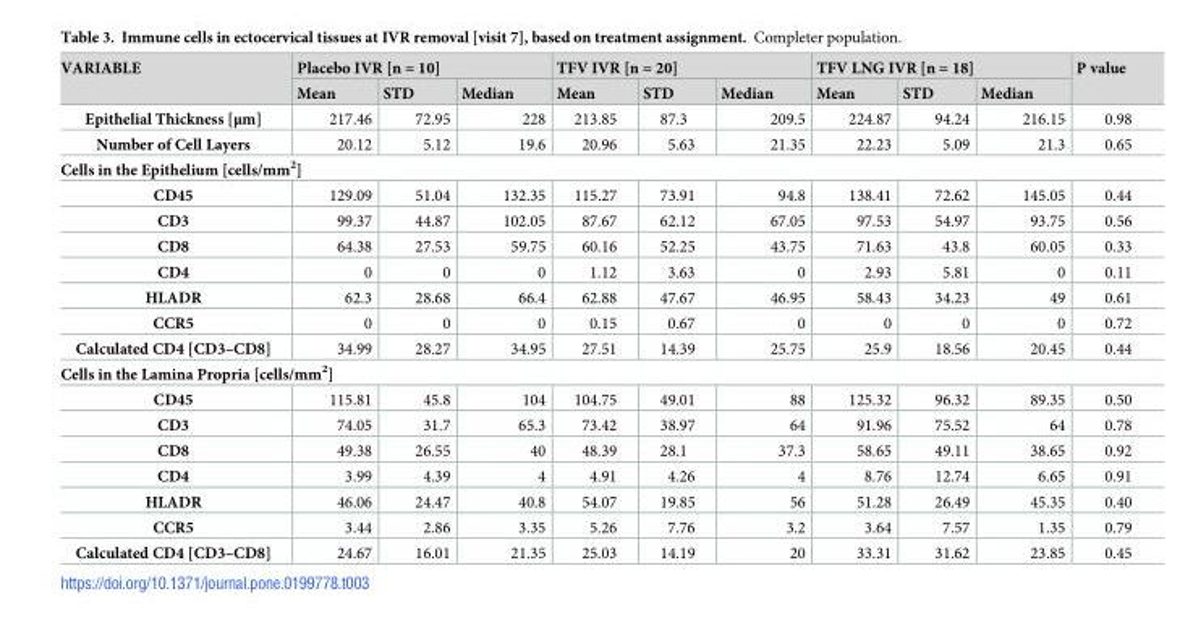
<table><thead><tr><td rowspan="2">VARIABLE</td><td colspan="3">Placebo IVR [n = 10]</td><td colspan="3">TFV IVR [n = 20]</td><td colspan="3">TFV LNG IVR [n = 18]</td><td rowspan="2">P value</td></tr><tr><td>Mean</td><td>STD</td><td>Median</td><td>Mean</td><td>STD</td><td>Median</td><td>Mean</td><td>STD</td><td>Median</td></tr></thead><tbody><tr><td>Epithelial Thickness [μm]</td><td>217.46</td><td>72.95</td><td>228</td><td>213.85</td><td>87.3</td><td>209.5</td><td>224.87</td><td>94.24</td><td>216.15</td><td>0.98</td></tr><tr><td>Number of Cell Layers</td><td>20.12</td><td>5.12</td><td>19.6</td><td>20.96</td><td>5.63</td><td>21.35</td><td>22.23</td><td>5.09</td><td>21.3</td><td>0.65</td></tr><tr><td colspan="11">Cells in the Epithelium [cells/mm<sup>2</sup>]</td></tr><tr><td>CD45</td><td>129.09</td><td>51.04</td><td>132.35</td><td>115.27</td><td>73.91</td><td>94.8</td><td>138.41</td><td>72.62</td><td>145.05</td><td>0.44</td></tr><tr><td>CD3</td><td>99.37</td><td>44.87</td><td>102.05</td><td>87.67</td><td>62.12</td><td>67.05</td><td>97.53</td><td>54.97</td><td>93.75</td><td>0.56</td></tr><tr><td>CD8</td><td>64.38</td><td>27.53</td><td>59.75</td><td>60.16</td><td>52.25</td><td>43.75</td><td>71.63</td><td>43.8</td><td>60.05</td><td>0.33</td></tr><tr><td>CD4</td><td>0</td><td>0</td><td>0</td><td>1.12</td><td>3.63</td><td>0</td><td>2.93</td><td>5.81</td><td>0</td><td>0.11</td></tr><tr><td>HLADR</td><td>62.3</td><td>28.68</td><td>66.4</td><td>62.88</td><td>47.67</td><td>46.95</td><td>58.43</td><td>34.23</td><td>49</td><td>0.61</td></tr><tr><td>CCR5</td><td>0</td><td>0</td><td>0</td><td>0.15</td><td>0.67</td><td>0</td><td>0</td><td>0</td><td>0</td><td>0.72</td></tr><tr><td>Calculated CD4 [CD3–CD8]</td><td>34.99</td><td>28.27</td><td>34.95</td><td>27.51</td><td>14.39</td><td>25.75</td><td>25.9</td><td>18.56</td><td>20.45</td><td>0.44</td></tr><tr><td colspan="11">Cells in the Lamina Propria [cells/mm<sup>2</sup>]</td></tr><tr><td>CD45</td><td>115.81</td><td>45.8</td><td>104</td><td>104.75</td><td>49.01</td><td>88</td><td>125.32</td><td>96.32</td><td>89.35</td><td>0.50</td></tr><tr><td>CD3</td><td>74.05</td><td>31.7</td><td>65.3</td><td>73.42</td><td>38.97</td><td>64</td><td>91.96</td><td>75.52</td><td>64</td><td>0.78</td></tr><tr><td>CD8</td><td>49.38</td><td>26.55</td><td>40</td><td>48.39</td><td>28.1</td><td>37.3</td><td>58.65</td><td>49.11</td><td>38.65</td><td>0.92</td></tr><tr><td>CD4</td><td>3.99</td><td>4.39</td><td>4</td><td>4.91</td><td>4.26</td><td>4</td><td>8.76</td><td>12.74</td><td>6.65</td><td>0.91</td></tr><tr><td>HLADR</td><td>46.06</td><td>24.47</td><td>40.8</td><td>54.07</td><td>19.85</td><td>56</td><td>51.28</td><td>26.49</td><td>45.35</td><td>0.40</td></tr><tr><td>CCR5</td><td>3.44</td><td>2.86</td><td>3.35</td><td>5.26</td><td>7.76</td><td>3.2</td><td>3.64</td><td>7.57</td><td>1.35</td><td>0.79</td></tr><tr><td>Calculated CD4 [CD3–CD8]</td><td>24.67</td><td>16.01</td><td>21.35</td><td>25.03</td><td>14.19</td><td>20</td><td>33.31</td><td>31.62</td><td>23.85</td><td>0.45</td></tr></tbody></table>